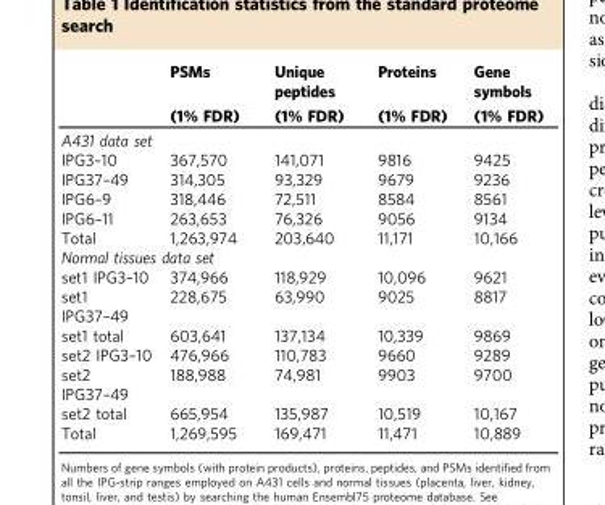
<table><thead><tr><td rowspan="2"></td><td rowspan="2">PSMs (1% FDR)</td><td rowspan="2">Unique peptides (1% FDR)</td><td rowspan="2">Proteins (1% FDR)</td><td rowspan="2">Gene symbols (1% FDR)</td></tr><tr></tr></thead><tbody><tr><td colspan="5">A431 data set</td></tr><tr><td>IPG3–10</td><td>367,570</td><td>141,071</td><td>9816</td><td>9425</td></tr><tr><td>IPG37–49</td><td>314,305</td><td>93,329</td><td>9679</td><td>9236</td></tr><tr><td>IPG6–9</td><td>318,446</td><td>72,511</td><td>8584</td><td>8561</td></tr><tr><td>IPG6–11</td><td>263,653</td><td>76,326</td><td>9056</td><td>9134</td></tr><tr><td>Total</td><td>1,263,974</td><td>203,640</td><td>11,171</td><td>10,166</td></tr><tr><td colspan="5">Normal tissues data set</td></tr><tr><td>set1 IPG3–10</td><td>374,966</td><td>118,929</td><td>10,096</td><td>9621</td></tr><tr><td>set1 IPG37–49</td><td>228,675</td><td>63,990</td><td>9025</td><td>8817</td></tr><tr><td>set1 total</td><td>603,641</td><td>137,134</td><td>10,339</td><td>9869</td></tr><tr><td>set2 IPG3–10</td><td>476,966</td><td>110,783</td><td>9660</td><td>9289</td></tr><tr><td>set2 IPG37–49</td><td>188,988</td><td>74,981</td><td>9903</td><td>9700</td></tr><tr><td>set2 total</td><td>665,954</td><td>135,987</td><td>10,519</td><td>10,167</td></tr><tr><td>Total</td><td>1,269,595</td><td>169,471</td><td>11,471</td><td>10,889</td></tr></tbody></table>